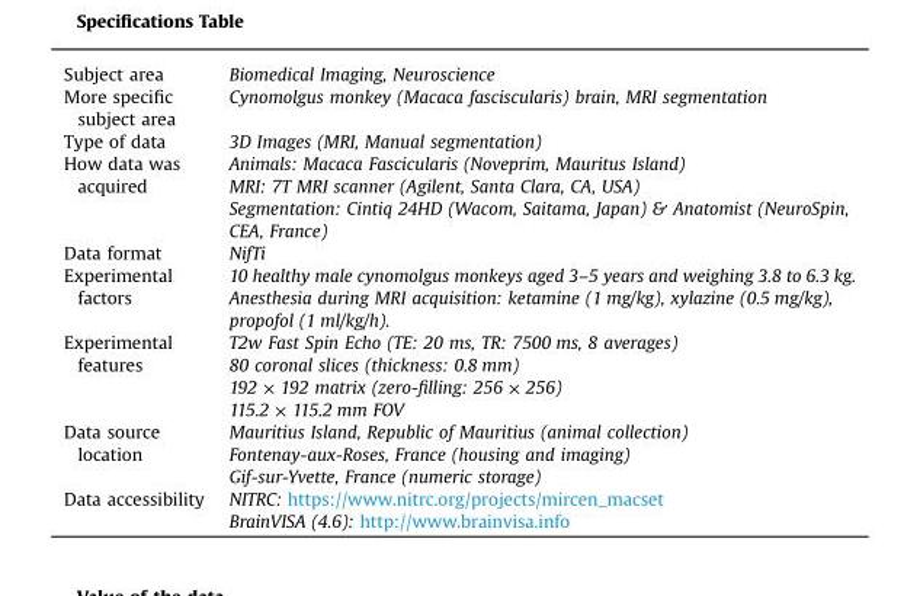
<table><tbody><tr><td>Subject area</td><td>Biomedical Imaging, Neuroscience</td></tr><tr><td>More specific subject area</td><td>Cynomolgus monkey (Macaca fasciscularis) brain, MRI segmentation</td></tr><tr><td>Type of data</td><td>3D Images (MRI, Manual segmentation)</td></tr><tr><td rowspan="3">How data was acquired</td><td>Animals: Macaca Fascicularis (Noveprim, Mauritus Island)</td></tr><tr><td>MRI: 7T MRI scanner (Agilent, Santa Clara, CA, USA)</td></tr><tr><td>Segmentation: Cintiq 24HD (Wacom, Saitama, Japan) &amp; Anatomist (NeuroSpin, CEA, France)</td></tr><tr><td>Data format</td><td>NifTi</td></tr><tr><td rowspan="2">Experimental factors</td><td>10 healthy male cynomolgus monkeys aged 3–5 years and weighing 3.8 to 6.3 kg.</td></tr><tr><td>Anesthesia during MRI acquisition: ketamine (1 mg/kg), xylazine (0.5 mg/kg), propofol (1 ml/kg/h).</td></tr><tr><td rowspan="4">Experimental features</td><td>T2w Fast Spin Echo (TE: 20 ms, TR: 7500 ms, 8 averages)</td></tr><tr><td>80 coronal slices (thickness: 0.8 mm)</td></tr><tr><td>192 × 192 matrix (zero-filling: 256 × 256)</td></tr><tr><td>115.2 × 115.2 mm FOV</td></tr><tr><td rowspan="3">Data source location</td><td>Mauritius Island, Republic of Mauritius (animal collection)</td></tr><tr><td>Fontenay-aux-Roses, France (housing and imaging)</td></tr><tr><td>Gif-sur-Yvette, France (numeric storage)</td></tr><tr><td rowspan="2">Data accessibility</td><td>NITRC: https://www.nitrc.org/projects/mircen_macset</td></tr><tr><td>BrainVISA (4.6): http://www.brainvisa.info</td></tr></tbody></table>